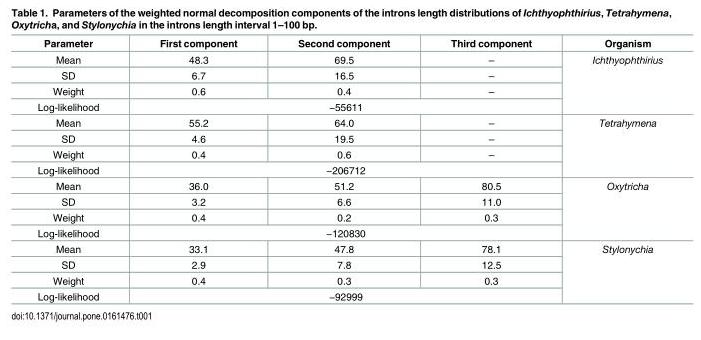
<table><thead><tr><td>Parameter</td><td>First component</td><td>Second component</td><td>Third component</td><td>Organism</td></tr></thead><tbody><tr><td>Mean</td><td>48.3</td><td>69.5</td><td>–</td><td rowspan="4">Ichthyophthirius</td></tr><tr><td>SD</td><td>6.7</td><td>16.5</td><td>–</td></tr><tr><td>Weight</td><td>0.6</td><td>0.4</td><td>–</td></tr><tr><td>Log-likelihood</td><td colspan="3">−55611</td></tr><tr><td>Mean</td><td>55.2</td><td>64.0</td><td>–</td><td rowspan="4">Tetrahymena</td></tr><tr><td>SD</td><td>4.6</td><td>19.5</td><td>–</td></tr><tr><td>Weight</td><td>0.4</td><td>0.6</td><td>–</td></tr><tr><td>Log-likelihood</td><td colspan="3">−206712</td></tr><tr><td>Mean</td><td>36.0</td><td>51.2</td><td>80.5</td><td rowspan="4">Oxytricha</td></tr><tr><td>SD</td><td>3.2</td><td>6.6</td><td>11.0</td></tr><tr><td>Weight</td><td>0.4</td><td>0.2</td><td>0.3</td></tr><tr><td>Log-likelihood</td><td colspan="3">−120830</td></tr><tr><td>Mean</td><td>33.1</td><td>47.8</td><td>78.1</td><td rowspan="4">Stylonychia</td></tr><tr><td>SD</td><td>2.9</td><td>7.8</td><td>12.5</td></tr><tr><td>Weight</td><td>0.4</td><td>0.3</td><td>0.3</td></tr><tr><td>Log-likelihood</td><td colspan="3">−92999</td></tr></tbody></table>